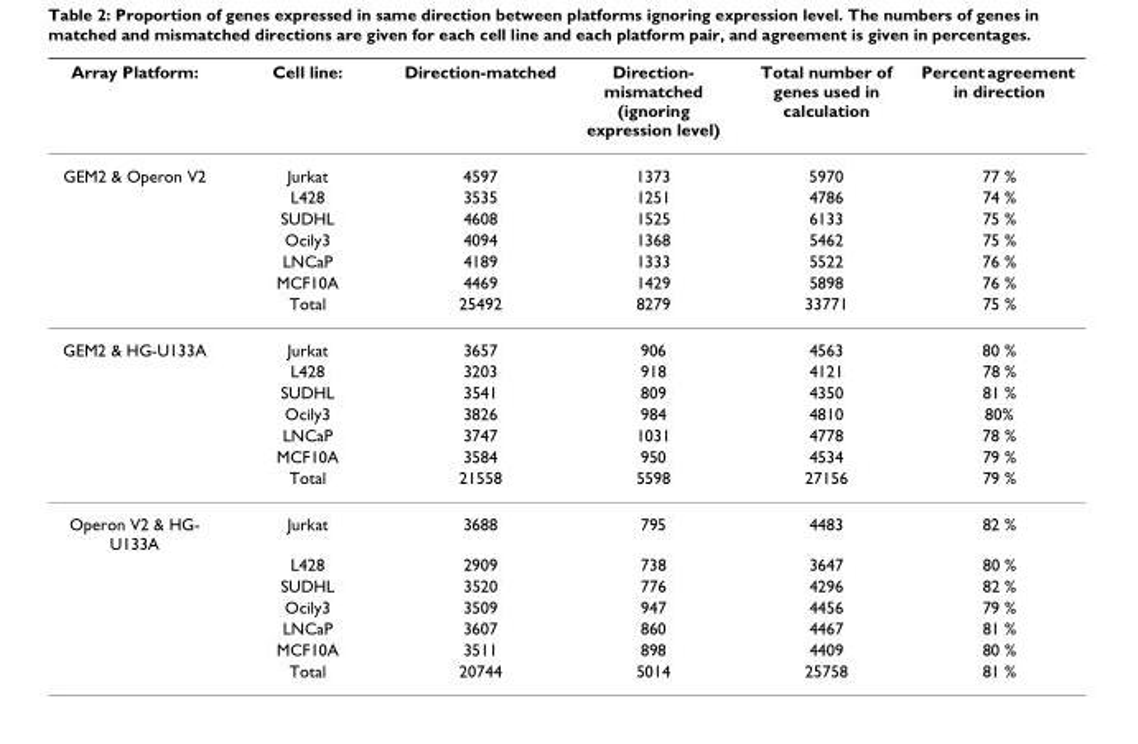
<table><thead><tr><td>Array Platform:</td><td>Cell line:</td><td>Direction-matched</td><td>Direction- mismatched (ignoring expression level)</td><td>Total number of genes used in calculation</td><td>Percent agreement in direction</td></tr></thead><tbody><tr><td rowspan="7">GEM2 &amp; Operon V2</td><td>Jurkat</td><td>4597</td><td>1373</td><td>5970</td><td>77 %</td></tr><tr><td>L428</td><td>3535</td><td>1251</td><td>4786</td><td>74 %</td></tr><tr><td>SUDHL</td><td>4608</td><td>1525</td><td>6133</td><td>75 %</td></tr><tr><td>Ocily3</td><td>4094</td><td>1368</td><td>5462</td><td>75 %</td></tr><tr><td>LNCaP</td><td>4189</td><td>1333</td><td>5522</td><td>76 %</td></tr><tr><td>MCF10A</td><td>4469</td><td>1429</td><td>5898</td><td>76 %</td></tr><tr><td>Total</td><td>25492</td><td>8279</td><td>33771</td><td>75 %</td></tr><tr><td rowspan="7">GEM2 &amp; HG-U133A</td><td>Jurkat</td><td>3657</td><td>906</td><td>4563</td><td>80 %</td></tr><tr><td>L428</td><td>3203</td><td>918</td><td>4121</td><td>78 %</td></tr><tr><td>SUDHL</td><td>3541</td><td>809</td><td>4350</td><td>81 %</td></tr><tr><td>Ocily3</td><td>3826</td><td>984</td><td>4810</td><td>80%</td></tr><tr><td>LNCaP</td><td>3747</td><td>1031</td><td>4778</td><td>78 %</td></tr><tr><td>MCF10A</td><td>3584</td><td>950</td><td>4534</td><td>79 %</td></tr><tr><td>Total</td><td>21558</td><td>5598</td><td>27156</td><td>79 %</td></tr><tr><td rowspan="7">Operon V2 &amp; HG- U133A</td><td>Jurkat</td><td>3688</td><td>795</td><td>4483</td><td>82 %</td></tr><tr><td>L428</td><td>2909</td><td>738</td><td>3647</td><td>80 %</td></tr><tr><td>SUDHL</td><td>3520</td><td>776</td><td>4296</td><td>82 %</td></tr><tr><td>Ocily3</td><td>3509</td><td>947</td><td>4456</td><td>79 %</td></tr><tr><td>LNCaP</td><td>3607</td><td>860</td><td>4467</td><td>81 %</td></tr><tr><td>MCF10A</td><td>3511</td><td>898</td><td>4409</td><td>80 %</td></tr><tr><td>Total</td><td>20744</td><td>5014</td><td>25758</td><td>81 %</td></tr></tbody></table>